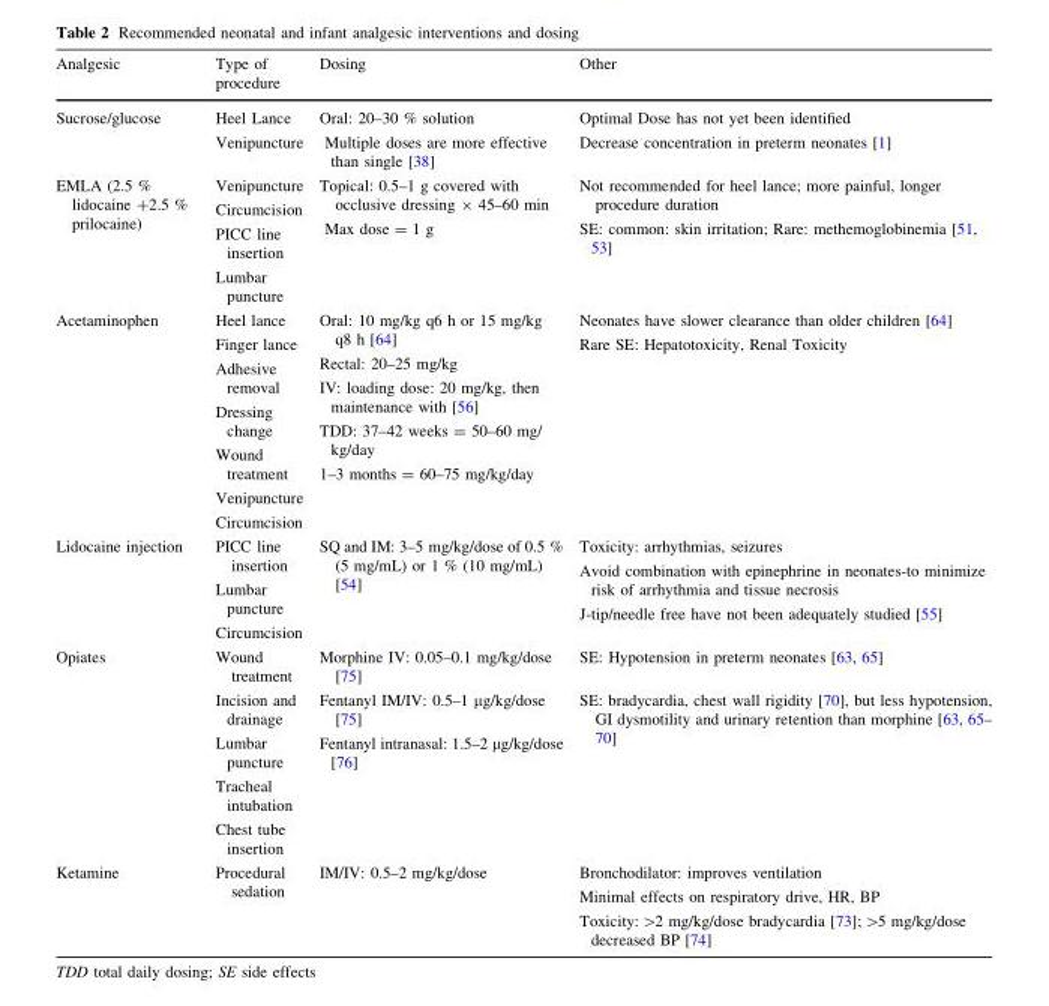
<table><thead><tr><td>Analgesic</td><td>Type of procedure</td><td>Dosing</td><td>Other</td></tr></thead><tbody><tr><td>Sucrose/glucose</td><td>Heel Lance Venipuncture</td><td>Oral: 20–30 % solution Multiple doses are more effective than single [38]</td><td>Optimal Dose has not yet been identified Decrease concentration in preterm neonates [1]</td></tr><tr><td>EMLA (2.5 % lidocaine +2.5 % prilocaine)</td><td>Venipuncture Circumcision PICC line insertion Lumbar puncture</td><td>Topical: 0.5–1 g covered with occlusive dressing × 45–60 min Max dose = 1 g</td><td>Not recommended for heel lance; more painful, longer procedure duration SE: common: skin irritation; Rare: methemoglobinemia [51, 53]</td></tr><tr><td>Acetaminophen</td><td>Heel lance Finger lance Adhesive removal Dressing change Wound treatment Venipuncture Circumcision</td><td>Oral: 10 mg/kg q6 h or 15 mg/kg q8 h [64] Rectal: 20–25 mg/kg IV: loading dose: 20 mg/kg, then maintenance with [56] TDD: 37–42 weeks = 50–60 mg/ kg/day 1–3 months = 60–75 mg/kg/day</td><td>Neonates have slower clearance than older children [64] Rare SE: Hepatotoxicity, Renal Toxicity</td></tr><tr><td>Lidocaine injection</td><td>PICC line insertion Lumbar puncture Circumcision</td><td>SQ and IM: 3–5 mg/kg/dose of 0.5 % (5 mg/mL) or 1 % (10 mg/mL) [54]</td><td>Toxicity: arrhythmias, seizures Avoid combination with epinephrine in neonates-to minimize risk of arrhythmia and tissue necrosis J-tip/needle free have not been adequately studied [55]</td></tr><tr><td rowspan="2">Opiates</td><td rowspan="2">Wound treatment Incision and drainage Lumbar puncture Tracheal intubation Chest tube insertion</td><td>Morphine IV: 0.05–0.1 mg/kg/dose [75]</td><td>SE: Hypotension in preterm neonates [63, 65]</td></tr><tr><td>Fentanyl IM/IV: 0.5–1 μg/kg/dose [75] Fentanyl intranasal: 1.5–2 μg/kg/dose [76]</td><td>SE: bradycardia, chest wall rigidity [70], but less hypotension, GI dysmotility and urinary retention than morphine [63, 65– 70]</td></tr><tr><td>Ketamine</td><td>Procedural sedation</td><td>IM/IV: 0.5–2 mg/kg/dose</td><td>Bronchodilator: improves ventilation Minimal effects on respiratory drive, HR, BP Toxicity: &gt;2 mg/kg/dose bradycardia [73]; &gt;5 mg/kg/dose decreased BP [74]</td></tr></tbody></table>